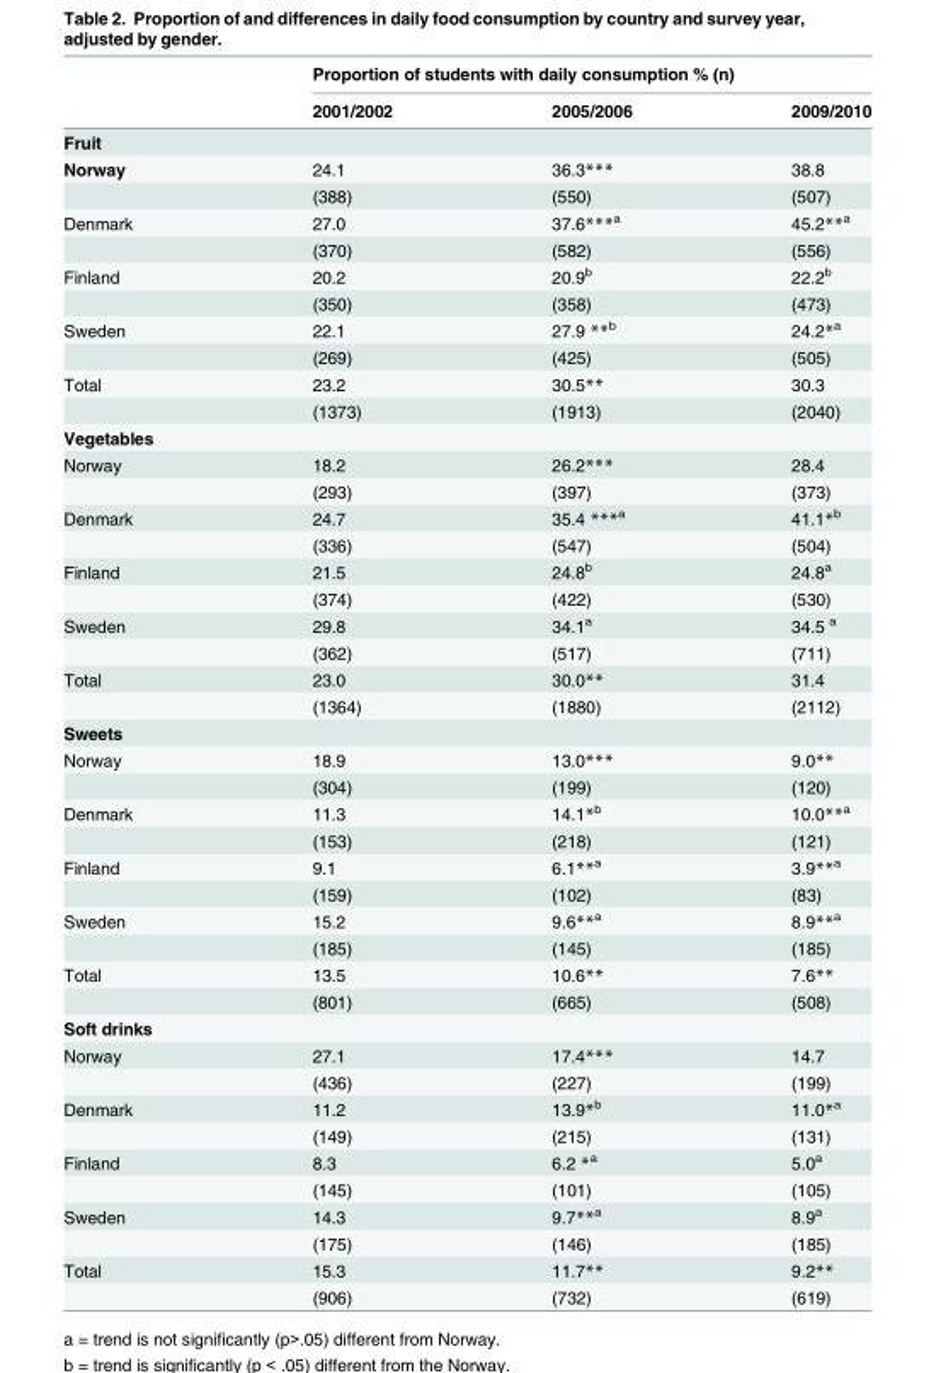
<table><thead><tr><td rowspan="2"></td><td colspan="3">Proportion of students with daily consumption % (n)</td></tr><tr><td>2001/2002</td><td>2005/2006</td><td>2009/2010</td></tr></thead><tbody><tr><td colspan="4">Fruit</td></tr><tr><td rowspan="2">Norway</td><td>24.1</td><td>36.3***</td><td>38.8</td></tr><tr><td>(388)</td><td>(550)</td><td>(507)</td></tr><tr><td rowspan="2">Denmark</td><td>27.0</td><td>37.6***<sup>a</sup></td><td>45.2**<sup>a</sup></td></tr><tr><td>(370)</td><td>(582)</td><td>(556)</td></tr><tr><td rowspan="2">Finland</td><td>20.2</td><td>20.9<sup>b</sup></td><td>22.2<sup>b</sup></td></tr><tr><td>(350)</td><td>(358)</td><td>(473)</td></tr><tr><td rowspan="2">Sweden</td><td>22.1</td><td>27.9 **<sup>b</sup></td><td>24.2*<sup>a</sup></td></tr><tr><td>(269)</td><td>(425)</td><td>(505)</td></tr><tr><td rowspan="2">Total</td><td>23.2</td><td>30.5**</td><td>30.3</td></tr><tr><td>(1373)</td><td>(1913)</td><td>(2040)</td></tr><tr><td colspan="4">Vegetables</td></tr><tr><td rowspan="2">Norway</td><td>18.2</td><td>26.2***</td><td>28.4</td></tr><tr><td>(293)</td><td>(397)</td><td>(373)</td></tr><tr><td rowspan="2">Denmark</td><td>24.7</td><td>35.4 ***<sup>a</sup></td><td>41.1*<sup>b</sup></td></tr><tr><td>(336)</td><td>(547)</td><td>(504)</td></tr><tr><td rowspan="2">Finland</td><td>21.5</td><td>24.8<sup>b</sup></td><td>24.8<sup>a</sup></td></tr><tr><td>(374)</td><td>(422)</td><td>(530)</td></tr><tr><td rowspan="2">Sweden</td><td>29.8</td><td>34.1<sup>a</sup></td><td>34.5 <sup>a</sup></td></tr><tr><td>(362)</td><td>(517)</td><td>(711)</td></tr><tr><td rowspan="2">Total</td><td>23.0</td><td>30.0**</td><td>31.4</td></tr><tr><td>(1364)</td><td>(1880)</td><td>(2112)</td></tr><tr><td colspan="4">Sweets</td></tr><tr><td rowspan="2">Norway</td><td>18.9</td><td>13.0***</td><td>9.0**</td></tr><tr><td>(304)</td><td>(199)</td><td>(120)</td></tr><tr><td rowspan="2">Denmark</td><td>11.3</td><td>14.1*<sup>b</sup></td><td>10.0**<sup>a</sup></td></tr><tr><td>(153)</td><td>(218)</td><td>(121)</td></tr><tr><td rowspan="2">Finland</td><td>9.1</td><td>6.1**<sup>a</sup></td><td>3.9**<sup>a</sup></td></tr><tr><td>(159)</td><td>(102)</td><td>(83)</td></tr><tr><td rowspan="2">Sweden</td><td>15.2</td><td>9.6**<sup>a</sup></td><td>8.9**<sup>a</sup></td></tr><tr><td>(185)</td><td>(145)</td><td>(185)</td></tr><tr><td rowspan="2">Total</td><td>13.5</td><td>10.6**</td><td>7.6**</td></tr><tr><td>(801)</td><td>(665)</td><td>(508)</td></tr><tr><td colspan="4">Soft drinks</td></tr><tr><td rowspan="2">Norway</td><td>27.1</td><td>17.4***</td><td>14.7</td></tr><tr><td>(436)</td><td>(227)</td><td>(199)</td></tr><tr><td rowspan="2">Denmark</td><td>11.2</td><td>13.9*<sup>b</sup></td><td>11.0*<sup>a</sup></td></tr><tr><td>(149)</td><td>(215)</td><td>(131)</td></tr><tr><td rowspan="2">Finland</td><td>8.3</td><td>6.2 *<sup>a</sup></td><td>5.0<sup>a</sup></td></tr><tr><td>(145)</td><td>(101)</td><td>(105)</td></tr><tr><td rowspan="2">Sweden</td><td>14.3</td><td>9.7**<sup>a</sup></td><td>8.9<sup>a</sup></td></tr><tr><td>(175)</td><td>(146)</td><td>(185)</td></tr><tr><td rowspan="2">Total</td><td>15.3</td><td>11.7**</td><td>9.2**</td></tr><tr><td>(906)</td><td>(732)</td><td>(619)</td></tr></tbody></table>